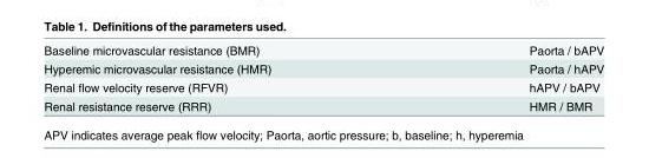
<table><tbody><tr><td>Baseline microvascular resistance (BMR)</td><td>Paorta / bAPV</td></tr><tr><td>Hyperemic microvascular resistance (HMR)</td><td>Paorta / hAPV</td></tr><tr><td>Renal flow velocity reserve (RFVR)</td><td>hAPV / bAPV</td></tr><tr><td>Renal resistance reserve (RRR)</td><td>HMR / BMR</td></tr></tbody></table>